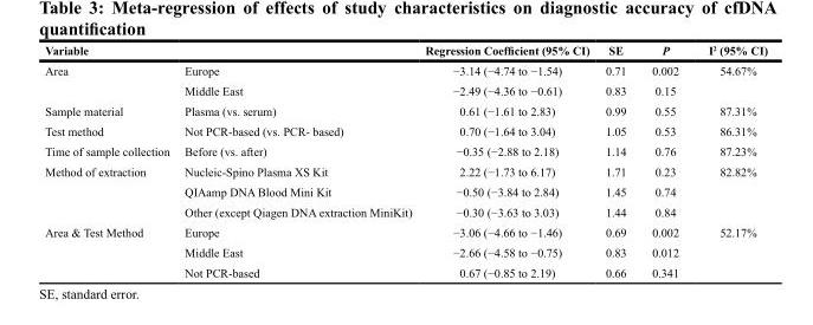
<table><thead><tr><td>Variable</td><td></td><td>Regression Coefficient (95% CI)</td><td>SE</td><td>P</td><td>I<sup>2</sup> (95% CI)</td></tr></thead><tbody><tr><td rowspan="2">Area</td><td>Europe</td><td>−3.14 (−4.74 to −1.54)</td><td>0.71</td><td>0.002</td><td>54.67%</td></tr><tr><td>Middle East</td><td>−2.49 (−4.36 to −0.61)</td><td>0.83</td><td>0.15</td><td></td></tr><tr><td>Sample material</td><td>Plasma (vs. serum)</td><td>0.61 (−1.61 to 2.83)</td><td>0.99</td><td>0.55</td><td>87.31%</td></tr><tr><td>Test method</td><td>Not PCR-based (vs. PCR- based)</td><td>0.70 (−1.64 to 3.04)</td><td>1.05</td><td>0.53</td><td>86.31%</td></tr><tr><td>Time of sample collection</td><td>Before (vs. after)</td><td>−0.35 (−2.88 to 2.18)</td><td>1.14</td><td>0.76</td><td>87.23%</td></tr><tr><td rowspan="3">Method of extraction</td><td>Nucleic-Spino Plasma XS Kit</td><td>2.22 (−1.73 to 6.17)</td><td>1.71</td><td>0.23</td><td>82.82%</td></tr><tr><td>QIAamp DNA Blood Mini Kit</td><td>−0.50 (−3.84 to 2.84)</td><td>1.45</td><td>0.74</td><td></td></tr><tr><td>Other (except Qiagen DNA extraction MiniKit)</td><td>−0.30 (−3.63 to 3.03)</td><td>1.44</td><td>0.84</td><td></td></tr><tr><td rowspan="3">Area &amp; Test Method</td><td>Europe</td><td>−3.06 (−4.66 to −1.46)</td><td>0.69</td><td>0.002</td><td>52.17%</td></tr><tr><td>Middle East</td><td>−2.66 (−4.58 to −0.75)</td><td>0.83</td><td>0.012</td><td></td></tr><tr><td>Not PCR-based</td><td>0.67 (−0.85 to 2.19)</td><td>0.66</td><td>0.341</td><td></td></tr></tbody></table>